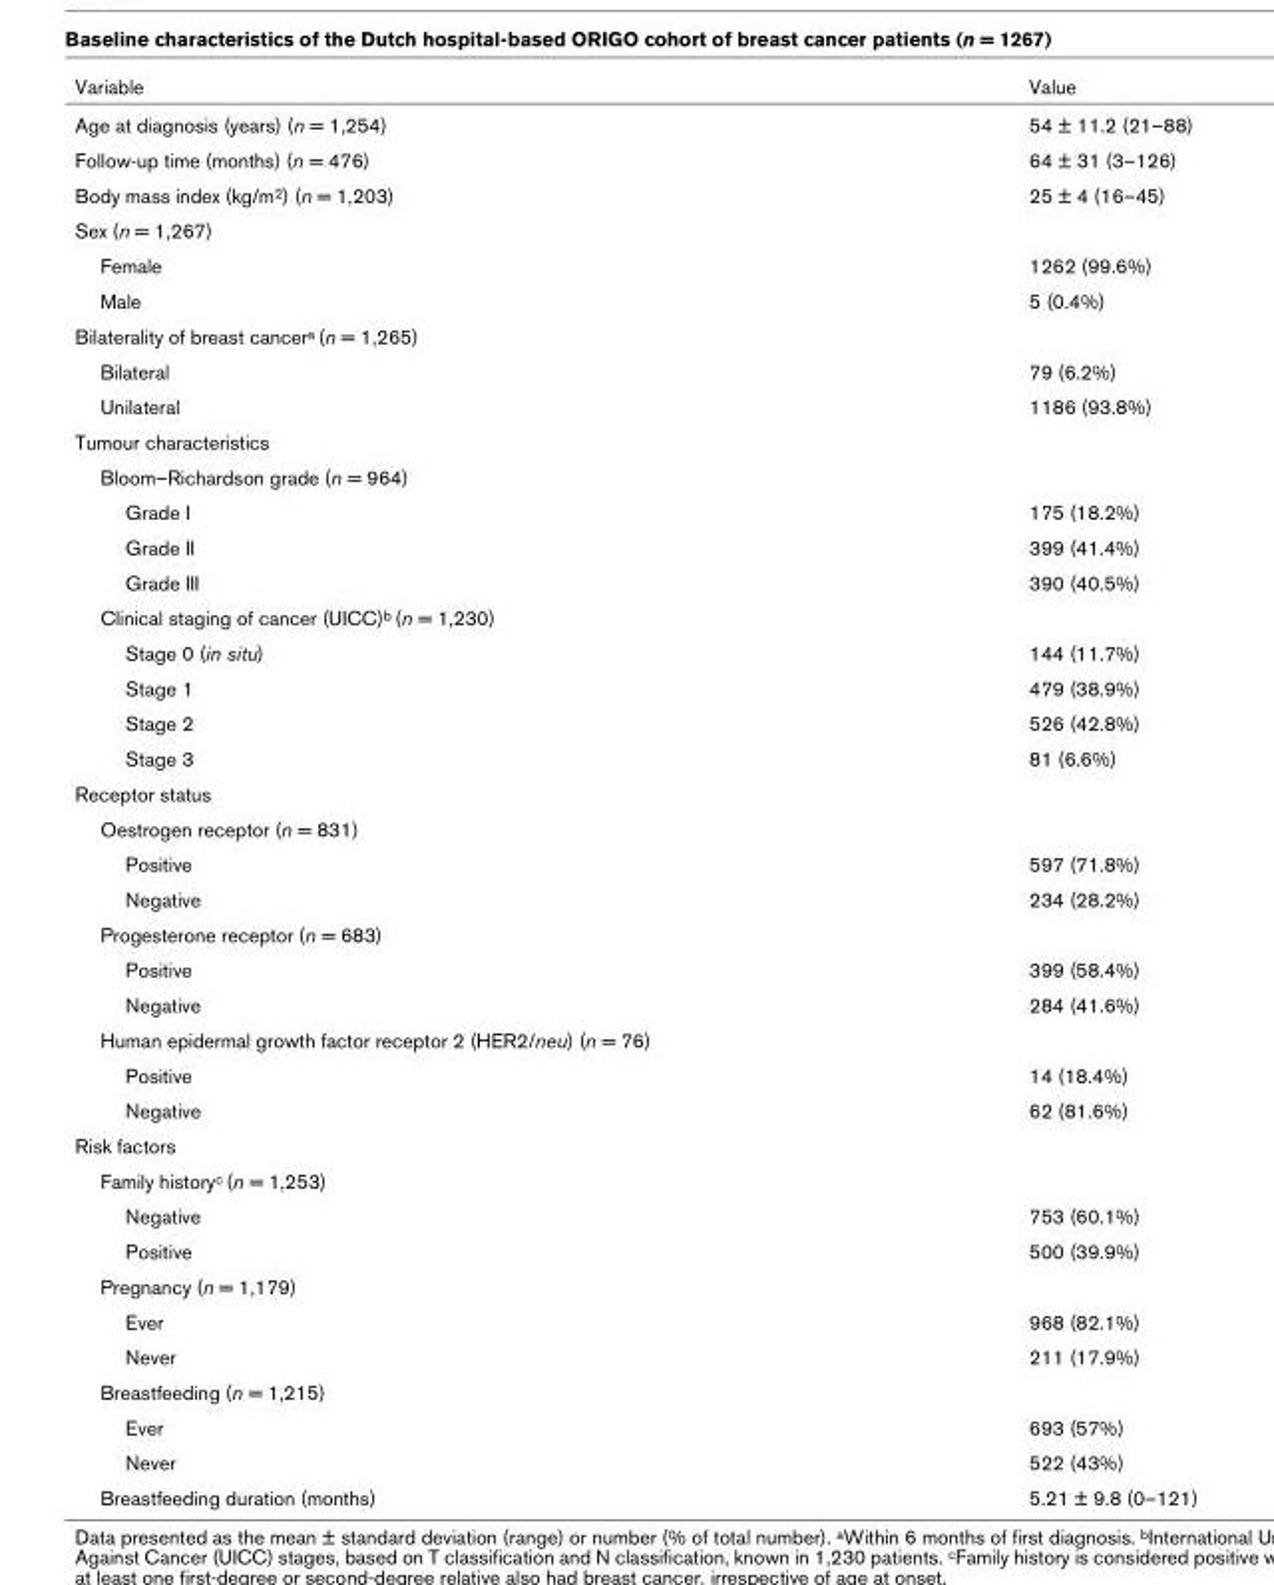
<table><thead><tr><td>Variable</td><td>Value</td></tr></thead><tbody><tr><td>Age at diagnosis (years) (n = 1,254)</td><td>54 ± 11.2 (21–88)</td></tr><tr><td>Follow-up time (months) (n = 476)</td><td>64 ± 31 (3–126)</td></tr><tr><td>Body mass index (kg/m<sup>2</sup>) (n = 1,203)</td><td>25 ± 4 (16–45)</td></tr><tr><td colspan="2">Sex (n = 1,267)</td></tr><tr><td>Female</td><td>1262 (99.6%)</td></tr><tr><td>Male</td><td>5 (0.4%)</td></tr><tr><td colspan="2">Bilaterality of breast cancer<sup>a</sup> (n = 1,265)</td></tr><tr><td>Bilateral</td><td>79 (6.2%)</td></tr><tr><td>Unilateral</td><td>1186 (93.8%)</td></tr><tr><td colspan="2">Tumour characteristics</td></tr><tr><td colspan="2">Bloom–Richardson grade (n = 964)</td></tr><tr><td>Grade I</td><td>175 (18.2%)</td></tr><tr><td>Grade II</td><td>399 (41.4%)</td></tr><tr><td>Grade III</td><td>390 (40.5%)</td></tr><tr><td colspan="2">Clinical staging of cancer (UICC)<sup>b</sup> (n = 1,230)</td></tr><tr><td>Stage 0 (in situ)</td><td>144 (11.7%)</td></tr><tr><td>Stage 1</td><td>479 (38.9%)</td></tr><tr><td>Stage 2</td><td>526 (42.8%)</td></tr><tr><td>Stage 3</td><td>81 (6.6%)</td></tr><tr><td colspan="2">Receptor status</td></tr><tr><td colspan="2">Oestrogen receptor (n = 831)</td></tr><tr><td>Positive</td><td>597 (71.8%)</td></tr><tr><td>Negative</td><td>234 (28.2%)</td></tr><tr><td colspan="2">Progesterone receptor (n = 683)</td></tr><tr><td>Positive</td><td>399 (58.4%)</td></tr><tr><td>Negative</td><td>284 (41.6%)</td></tr><tr><td colspan="2">Human epidermal growth factor receptor 2 (HER2/neu) (n = 76)</td></tr><tr><td>Positive</td><td>14 (18.4%)</td></tr><tr><td>Negative</td><td>62 (81.6%)</td></tr><tr><td colspan="2">Risk factors</td></tr><tr><td colspan="2">Family history<sup>c</sup> (n = 1,253)</td></tr><tr><td>Negative</td><td>753 (60.1%)</td></tr><tr><td>Positive</td><td>500 (39.9%)</td></tr><tr><td colspan="2">Pregnancy (n = 1,179)</td></tr><tr><td>Ever</td><td>968 (82.1%)</td></tr><tr><td>Never</td><td>211 (17.9%)</td></tr><tr><td colspan="2">Breastfeeding (n = 1,215)</td></tr><tr><td>Ever</td><td>693 (57%)</td></tr><tr><td>Never</td><td>522 (43%)</td></tr><tr><td>Breastfeeding duration (months)</td><td>5.21 ± 9.8 (0–121)</td></tr></tbody></table>